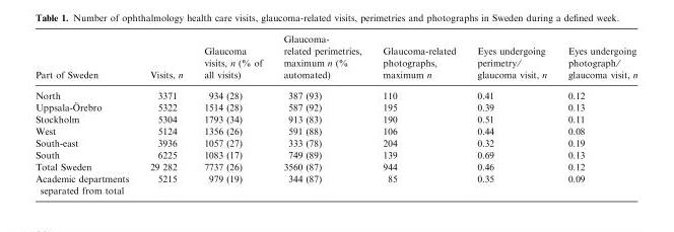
<table><thead><tr><td>Part of Sweden</td><td>Visits, n</td><td>Glaucoma visits, n (% of all visits)</td><td>Glaucoma- related perimetries, maximum n (% automated)</td><td>Glaucoma-related photographs, maximum n</td><td>Eyes undergoing perimetry ⁄ glaucoma visit, n</td><td>Eyes undergoing photograph ⁄ glaucoma visit, n</td></tr></thead><tbody><tr><td>North</td><td>3371</td><td>934 (28)</td><td>387 (93)</td><td>110</td><td>0.41</td><td>0.12</td></tr><tr><td>Uppsala-O¨ rebro</td><td>5322</td><td>1514 (28)</td><td>587 (92)</td><td>195</td><td>0.39</td><td>0.13</td></tr><tr><td>Stockholm</td><td>5304</td><td>1793 (34)</td><td>913 (83)</td><td>190</td><td>0.51</td><td>0.11</td></tr><tr><td>West</td><td>5124</td><td>1356 (26)</td><td>591 (88)</td><td>106</td><td>0.44</td><td>0.08</td></tr><tr><td>South-east</td><td>3936</td><td>1057 (27)</td><td>333 (78)</td><td>204</td><td>0.32</td><td>0.19</td></tr><tr><td>South</td><td>6225</td><td>1083 (17)</td><td>749 (89)</td><td>139</td><td>0.69</td><td>0.13</td></tr><tr><td>Total Sweden</td><td>29 282</td><td>7737 (26)</td><td>3560 (87)</td><td>944</td><td>0.46</td><td>0.12</td></tr><tr><td>Academic departments separated from total</td><td>5215</td><td>979 (19)</td><td>344 (87)</td><td>85</td><td>0.35</td><td>0.09</td></tr></tbody></table>